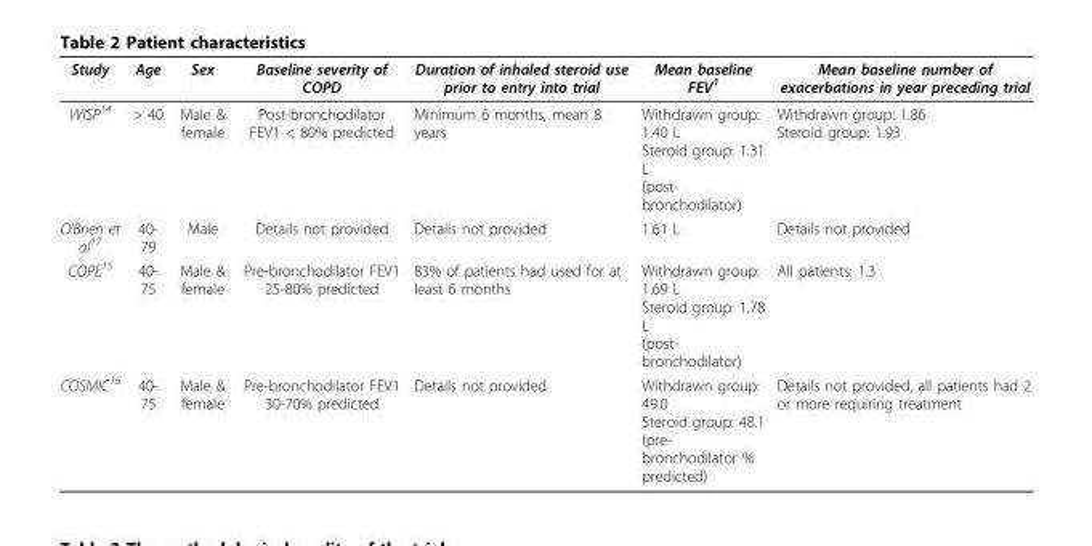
<table><thead><tr><td>Study</td><td>Age</td><td>Sex</td><td>Baseline severity of COPD</td><td>Duration of inhaled steroid use prior to entry into trial</td><td>Mean baseline FEV<sup>1</sup></td><td>Mean baseline number of exacerbations in year preceding trial</td></tr></thead><tbody><tr><td>WISP<sup>14</sup></td><td>&gt; 40</td><td>Male &amp; female</td><td>Post-bronchodilator FEV1 &lt; 80% predicted</td><td>Minimum 6 months, mean 8 years</td><td>Withdrawn group: 1.40 L Steroid group: 1.31 L (post- bronchodilator)</td><td>Withdrawn group: 1.86 Steroid group: 1.93</td></tr><tr><td>O’Brien et al<sup>17</sup></td><td>40- 79</td><td>Male</td><td>Details not provided</td><td>Details not provided</td><td>1.61 L</td><td>Details not provided</td></tr><tr><td>COPE<sup>15</sup></td><td>40- 75</td><td>Male &amp; female</td><td>Pre-bronchodilator FEV1 25-80% predicted</td><td>83% of patients had used for at least 6 months</td><td>Withdrawn group: 1.69 L Steroid group: 1.78 L (post- bronchodilator)</td><td>All patients: 1.3</td></tr><tr><td>COSMIC<sup>16</sup></td><td>40- 75</td><td>Male &amp; female</td><td>Pre-bronchodilator FEV1 30-70% predicted</td><td>Details not provided</td><td>Withdrawn group: 49.0 Steroid group: 48.1 (pre- bronchodilator % predicted)</td><td>Details not provided, all patients had 2 or more requiring treatment</td></tr></tbody></table>